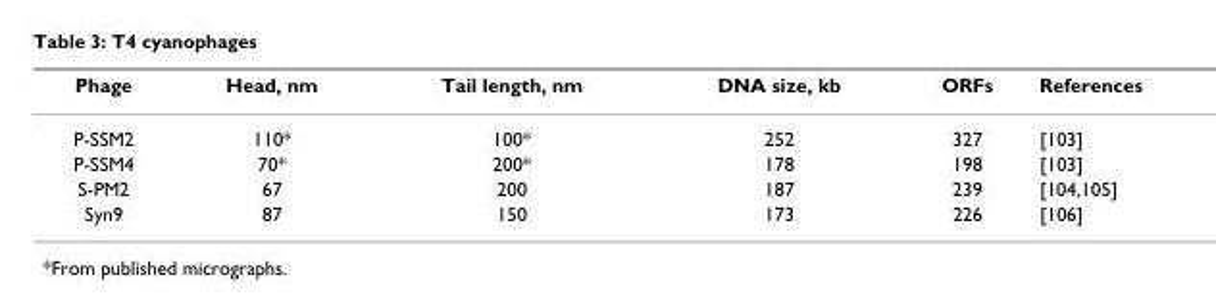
<table><thead><tr><td>Phage</td><td>Head, nm</td><td>Tail length, nm</td><td>DNA size, kb</td><td>ORFs</td><td>References</td></tr></thead><tbody><tr><td>P-SSM2</td><td>110*</td><td>100*</td><td>252</td><td>327</td><td>[103]</td></tr><tr><td>P-SSM4</td><td>70*</td><td>200*</td><td>178</td><td>198</td><td>[103]</td></tr><tr><td>S-PM2</td><td>67</td><td>200</td><td>187</td><td>239</td><td>[104,105]</td></tr><tr><td>Syn9</td><td>87</td><td>150</td><td>173</td><td>226</td><td>[106]</td></tr></tbody></table>